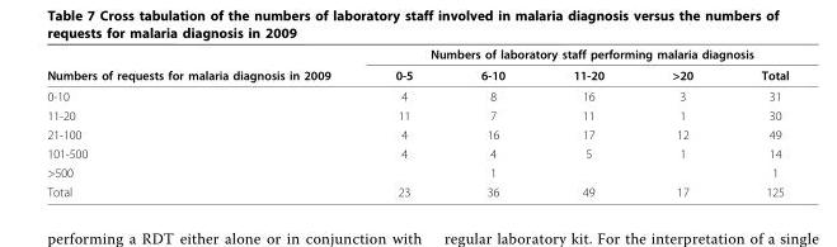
<table><thead><tr><td rowspan="2">Numbers of requests for malaria diagnosis in 2009</td><td colspan="5">Numbers of laboratory staff performing malaria diagnosis</td></tr><tr><td>0-5</td><td>6-10</td><td>11-20</td><td>&gt;20</td><td>Total</td></tr></thead><tbody><tr><td>0-10</td><td>4</td><td>8</td><td>16</td><td>3</td><td>31</td></tr><tr><td>11-20</td><td>11</td><td>7</td><td>11</td><td>1</td><td>30</td></tr><tr><td>21-100</td><td>4</td><td>16</td><td>17</td><td>12</td><td>49</td></tr><tr><td>101-500</td><td>4</td><td>4</td><td>5</td><td>1</td><td>14</td></tr><tr><td>&gt;500</td><td></td><td>1</td><td></td><td></td><td>1</td></tr><tr><td>Total</td><td>23</td><td>36</td><td>49</td><td>17</td><td>125</td></tr></tbody></table>